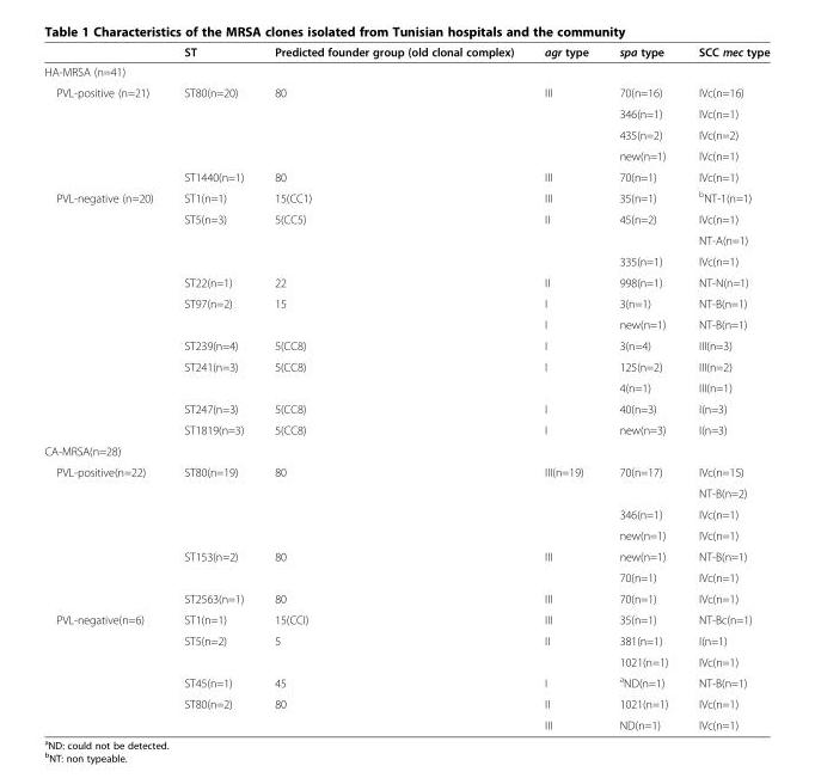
<table><thead><tr><td></td><td>ST</td><td>Predicted founder group (old clonal complex)</td><td>agr type</td><td>spa type</td><td>SCC mec type</td></tr></thead><tbody><tr><td colspan="6">HA-MRSA (n=41)</td></tr><tr><td rowspan="5">PVL-positive (n=21)</td><td rowspan="4">ST80(n=20)</td><td rowspan="4">80</td><td rowspan="4">III</td><td>70(n=16)</td><td>IVc(n=16)</td></tr><tr><td>346(n=1)</td><td>IVc(n=1)</td></tr><tr><td>435(n=2)</td><td>IVc(n=2)</td></tr><tr><td>new(n=1)</td><td>IVc(n=1)</td></tr><tr><td>ST1440(n=1)</td><td>80</td><td>III</td><td>70(n=1)</td><td>IVc(n=1)</td></tr><tr><td rowspan="12">PVL-negative (n=20)</td><td>ST1(n=1)</td><td>15(CC1)</td><td>III</td><td>35(n=1)</td><td><sup>b</sup>NT-1(n=1)</td></tr><tr><td>ST5(n=3)</td><td>5(CC5)</td><td>II</td><td>45(n=2)</td><td>IVc(n=1)</td></tr><tr><td></td><td></td><td></td><td></td><td>NT-A(n=1)</td></tr><tr><td></td><td></td><td></td><td>335(n=1)</td><td>IVc(n=1)</td></tr><tr><td>ST22(n=1)</td><td>22</td><td>II</td><td>998(n=1)</td><td>NT-N(n=1)</td></tr><tr><td>ST97(n=2)</td><td>15</td><td>I</td><td>3(n=1)</td><td>NT-B(n=1)</td></tr><tr><td></td><td></td><td>I</td><td>new(n=1)</td><td>NT-B(n=1)</td></tr><tr><td>ST239(n=4)</td><td>5(CC8)</td><td>I</td><td>3(n=4)</td><td>III(n=3)</td></tr><tr><td>ST241(n=3)</td><td>5(CC8)</td><td>I</td><td>125(n=2)</td><td>III(n=2)</td></tr><tr><td></td><td></td><td></td><td>4(n=1)</td><td>III(n=1)</td></tr><tr><td>ST247(n=3)</td><td>5(CC8)</td><td>I</td><td>40(n=3)</td><td>I(n=3)</td></tr><tr><td>ST1819(n=3)</td><td>5(CC8)</td><td>I</td><td>new(n=3)</td><td>I(n=3)</td></tr><tr><td colspan="6">CA-MRSA(n=28)</td></tr><tr><td rowspan="7">PVL-positive(n=22)</td><td>ST80(n=19)</td><td>80</td><td>III(n=19)</td><td>70(n=17)</td><td>IVc(n=15)</td></tr><tr><td></td><td></td><td></td><td></td><td>NT-B(n=2)</td></tr><tr><td></td><td></td><td></td><td>346(n=1)</td><td>IVc(n=1)</td></tr><tr><td></td><td></td><td></td><td>new(n=1)</td><td>IVc(n=1)</td></tr><tr><td>ST153(n=2)</td><td>80</td><td>III</td><td>new(n=1)</td><td>NT-B(n=1)</td></tr><tr><td></td><td></td><td></td><td>70(n=1)</td><td>IVc(n=1)</td></tr><tr><td>ST2563(n=1)</td><td>80</td><td>III</td><td>70(n=1)</td><td>IVc(n=1)</td></tr><tr><td rowspan="6">PVL-negative(n=6)</td><td>ST1(n=1)</td><td>15(CCI)</td><td>III</td><td>35(n=1)</td><td>NT-Bc(n=1)</td></tr><tr><td>ST5(n=2)</td><td>5</td><td>II</td><td>381(n=1)</td><td>I(n=1)</td></tr><tr><td></td><td></td><td></td><td>1021(n=1)</td><td>IVc(n=1)</td></tr><tr><td>ST45(n=1)</td><td>45</td><td>I</td><td><sup>a</sup>ND(n=1)</td><td>NT-B(n=1)</td></tr><tr><td>ST80(n=2)</td><td>80</td><td>II</td><td>1021(n=1)</td><td>IVc(n=1)</td></tr><tr><td></td><td></td><td>III</td><td>ND(n=1)</td><td>IVc(n=1)</td></tr></tbody></table>